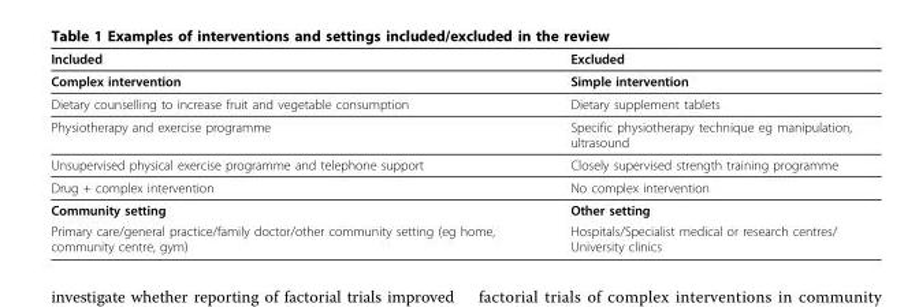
<table><thead><tr><td>Included</td><td>Excluded</td></tr></thead><tbody><tr><td>Complex intervention</td><td>Simple intervention</td></tr><tr><td>Dietary counselling to increase fruit and vegetable consumption</td><td>Dietary supplement tablets</td></tr><tr><td>Physiotherapy and exercise programme</td><td>Specific physiotherapy technique eg manipulation, ultrasound</td></tr><tr><td>Unsupervised physical exercise programme and telephone support</td><td>Closely supervised strength training programme</td></tr><tr><td>Drug + complex intervention</td><td>No complex intervention</td></tr><tr><td>Community setting</td><td>Other setting</td></tr><tr><td>Primary care/general practice/family doctor/other community setting (eg home, community centre, gym)</td><td>Hospitals/Specialist medical or research centres/ University clinics</td></tr></tbody></table>